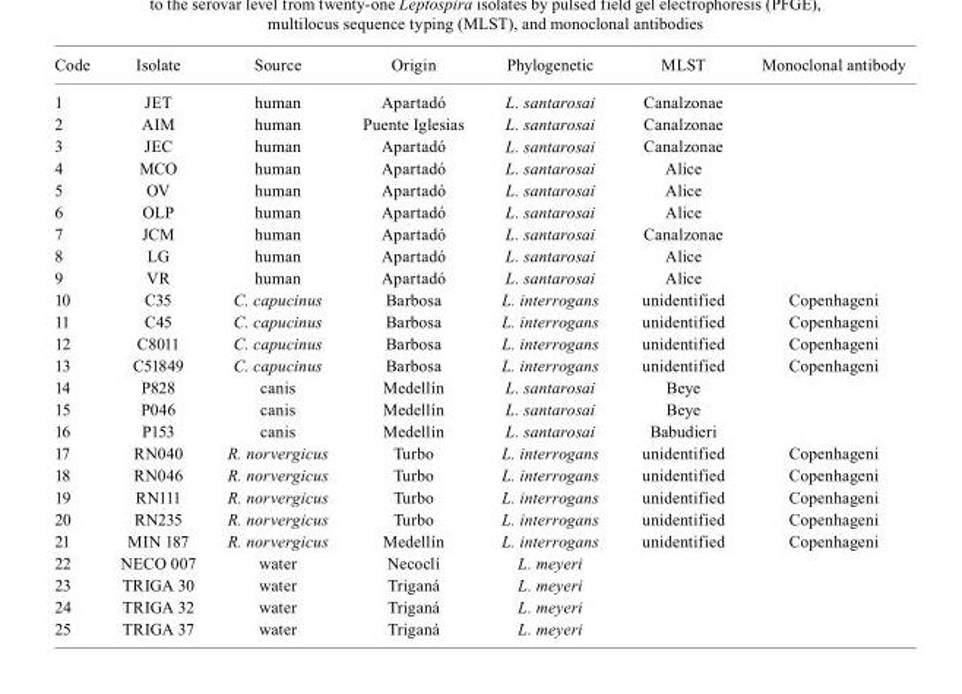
<table><thead><tr><td>Code</td><td>Isolate</td><td>Source</td><td>Origin</td><td>Phylogenetic</td><td>MLST</td><td>Monoclonal antibody</td></tr></thead><tbody><tr><td>1</td><td>JET</td><td>human</td><td>Apartadó</td><td>L. santarosai</td><td>Canalzonae</td><td></td></tr><tr><td>2</td><td>AIM</td><td>human</td><td>Puente Iglesias</td><td>L. santarosai</td><td>Canalzonae</td><td></td></tr><tr><td>3</td><td>JEC</td><td>human</td><td>Apartadó</td><td>L. santarosai</td><td>Canalzonae</td><td></td></tr><tr><td>4</td><td>MCO</td><td>human</td><td>Apartadó</td><td>L. santarosai</td><td>Alice</td><td></td></tr><tr><td>5</td><td>OV</td><td>human</td><td>Apartadó</td><td>L. santarosai</td><td>Alice</td><td></td></tr><tr><td>6</td><td>OLP</td><td>human</td><td>Apartadó</td><td>L. santarosai</td><td>Alice</td><td></td></tr><tr><td>7</td><td>JCM</td><td>human</td><td>Apartadó</td><td>L. santarosai</td><td>Canalzonae</td><td></td></tr><tr><td>8</td><td>LG</td><td>human</td><td>Apartadó</td><td>L. santarosai</td><td>Alice</td><td></td></tr><tr><td>9</td><td>VR</td><td>human</td><td>Apartadó</td><td>L. santarosai</td><td>Alice</td><td></td></tr><tr><td>10</td><td>C35</td><td>C. capucinus</td><td>Barbosa</td><td>L. interrogans</td><td>unidentified</td><td>Copenhageni</td></tr><tr><td>11</td><td>C45</td><td>C. capucinus</td><td>Barbosa</td><td>L. interrogans</td><td>unidentified</td><td>Copenhageni</td></tr><tr><td>12</td><td>C8011</td><td>C. capucinus</td><td>Barbosa</td><td>L. interrogans</td><td>unidentified</td><td>Copenhageni</td></tr><tr><td>13</td><td>C51849</td><td>C. capucinus</td><td>Barbosa</td><td>L. interrogans</td><td>unidentified</td><td>Copenhageni</td></tr><tr><td>14</td><td>P828</td><td>canis</td><td>Medellín</td><td>L. santarosai</td><td>Beye</td><td></td></tr><tr><td>15</td><td>P046</td><td>canis</td><td>Medellín</td><td>L. santarosai</td><td>Beye</td><td></td></tr><tr><td>16</td><td>P153</td><td>canis</td><td>Medellín</td><td>L. santarosai</td><td>Babudieri</td><td></td></tr><tr><td>17</td><td>RN040</td><td>R. norvergicus</td><td>Turbo</td><td>L. interrogans</td><td>unidentified</td><td>Copenhageni</td></tr><tr><td>18</td><td>RN046</td><td>R. norvergicus</td><td>Turbo</td><td>L. interrogans</td><td>unidentified</td><td>Copenhageni</td></tr><tr><td>19</td><td>RN111</td><td>R. norvergicus</td><td>Turbo</td><td>L. interrogans</td><td>unidentified</td><td>Copenhageni</td></tr><tr><td>20</td><td>RN235</td><td>R. norvergicus</td><td>Turbo</td><td>L. interrogans</td><td>unidentified</td><td>Copenhageni</td></tr><tr><td>21</td><td>MIN 187</td><td>R. norvergicus</td><td>Medellín</td><td>L. interrogans</td><td>unidentified</td><td>Copenhageni</td></tr><tr><td>22</td><td>NECO 007</td><td>water</td><td>Necoclí</td><td>L. meyeri</td><td></td><td></td></tr><tr><td>23</td><td>TRIGA 30</td><td>water</td><td>Triganá</td><td>L. meyeri</td><td></td><td></td></tr><tr><td>24</td><td>TRIGA 32</td><td>water</td><td>Triganá</td><td>L. meyeri</td><td></td><td></td></tr><tr><td>25</td><td>TRIGA 37</td><td>water</td><td>Triganá</td><td>L. meyeri</td><td></td><td></td></tr></tbody></table>